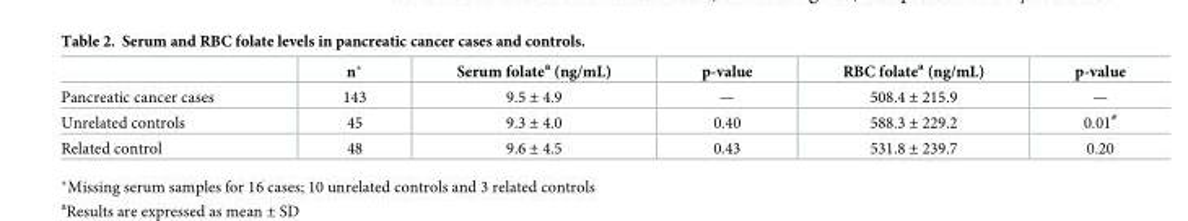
<table><thead><tr><td></td><td>n*</td><td>Serum folate<sup>a</sup> (ng/mL)</td><td>p-value</td><td>RBC folate<sup>a</sup> (ng/mL)</td><td>p-value</td></tr></thead><tbody><tr><td>Pancreatic cancer cases</td><td>143</td><td>9.5 ± 4.9</td><td>—</td><td>508.4 ± 215.9</td><td>—</td></tr><tr><td>Unrelated controls</td><td>45</td><td>9.3 ± 4.0</td><td>0.40</td><td>588.3 ± 229.2</td><td>0.01<sup>#</sup></td></tr><tr><td>Related control</td><td>48</td><td>9.6 ± 4.5</td><td>0.43</td><td>531.8 ± 239.7</td><td>0.20</td></tr></tbody></table>